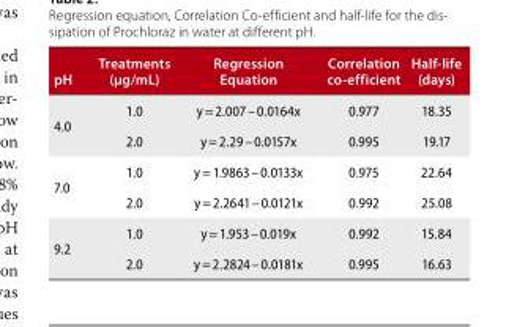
<table><thead><tr><td>pH</td><td>treatments (μg/ml)</td><td>regression equation</td><td>Correlation co-efficient</td><td>Half-life (days)</td></tr></thead><tbody><tr><td rowspan="2">4.0</td><td>1.0</td><td>y = 2.007 – 0.0164x</td><td>0.977</td><td>18.35</td></tr><tr><td>2.0</td><td>y = 2.29 – 0.0157x</td><td>0.995</td><td>19.17</td></tr><tr><td rowspan="2">7.0</td><td>1.0</td><td>y = 1.9863 – 0.0133x</td><td>0.975</td><td>22.64</td></tr><tr><td>2.0</td><td>y = 2.2641 – 0.0121x</td><td>0.992</td><td>25.08</td></tr><tr><td rowspan="2">9.2</td><td>1.0</td><td>y = 1.953 – 0.019x</td><td>0.992</td><td>15.84</td></tr><tr><td>2.0</td><td>y = 2.2824 – 0.0181x</td><td>0.995</td><td>16.63</td></tr></tbody></table>